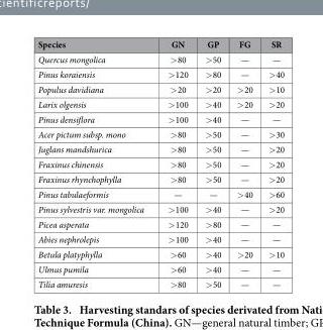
<table><thead><tr><td>Species</td><td>GN</td><td>GP</td><td>FG</td><td>SR</td></tr></thead><tbody><tr><td>Quercus mongolica</td><td>&gt; 80</td><td>&gt; 50</td><td>—</td><td>—</td></tr><tr><td>Pinus koraiensis</td><td>&gt; 120</td><td>&gt; 80</td><td>—</td><td>&gt; 40</td></tr><tr><td>Populus davidiana</td><td>&gt; 20</td><td>&gt; 20</td><td>&gt; 20</td><td>&gt; 10</td></tr><tr><td>Larix olgensis</td><td>&gt; 100</td><td>&gt; 40</td><td>&gt; 20</td><td>&gt; 20</td></tr><tr><td>Pinus densiflora</td><td>&gt; 100</td><td>&gt; 40</td><td>—</td><td>—</td></tr><tr><td>Acer pictum subsp. mono</td><td>&gt; 80</td><td>&gt; 50</td><td>—</td><td>&gt; 30</td></tr><tr><td>Juglans mandshurica</td><td>&gt; 80</td><td>&gt; 50</td><td>—</td><td>&gt; 20</td></tr><tr><td>Fraxinus chinensis</td><td>&gt; 80</td><td>&gt; 50</td><td>—</td><td>&gt; 20</td></tr><tr><td>Fraxinus rhynchophylla</td><td>&gt; 80</td><td>&gt; 50</td><td>—</td><td>&gt; 20</td></tr><tr><td>Pinus tabulaeformis</td><td>—</td><td>—</td><td>&gt; 40</td><td>&gt; 60</td></tr><tr><td>Pinus sylvestris var. mongolica</td><td>&gt; 100</td><td>&gt; 40</td><td>—</td><td>&gt; 20</td></tr><tr><td>Picea asperata</td><td>&gt; 120</td><td>&gt; 80</td><td>—</td><td>—</td></tr><tr><td>Abies nephrolepis</td><td>&gt; 100</td><td>&gt; 40</td><td>—</td><td>—</td></tr><tr><td>Betula platyphylla</td><td>&gt; 60</td><td>&gt; 40</td><td>&gt; 20</td><td>&gt; 10</td></tr><tr><td>Ulmus pumila</td><td>&gt; 60</td><td>&gt; 40</td><td>—</td><td>—</td></tr><tr><td>Tilia amuresis</td><td>&gt; 80</td><td>&gt; 50</td><td>—</td><td>—</td></tr></tbody></table>